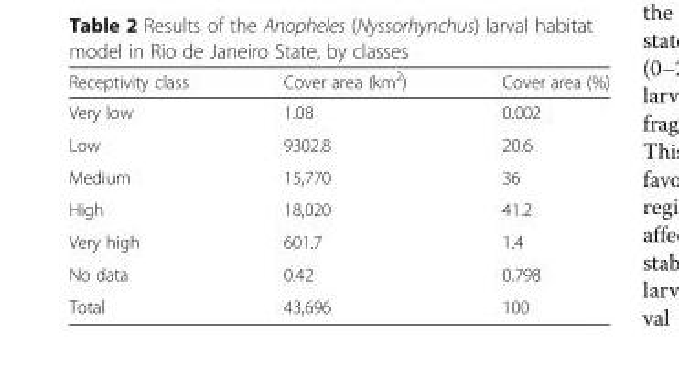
<table><thead><tr><td>Receptivity class</td><td>Cover area (km<sup>2</sup>)</td><td>Cover area (%)</td></tr></thead><tbody><tr><td>Very low</td><td>1.08</td><td>0.002</td></tr><tr><td>Low</td><td>9302.8</td><td>20.6</td></tr><tr><td>Medium</td><td>15,770</td><td>36</td></tr><tr><td>High</td><td>18,020</td><td>41.2</td></tr><tr><td>Very high</td><td>601.7</td><td>1.4</td></tr><tr><td>No data</td><td>0.42</td><td>0.798</td></tr><tr><td>Total</td><td>43,696</td><td>100</td></tr></tbody></table>